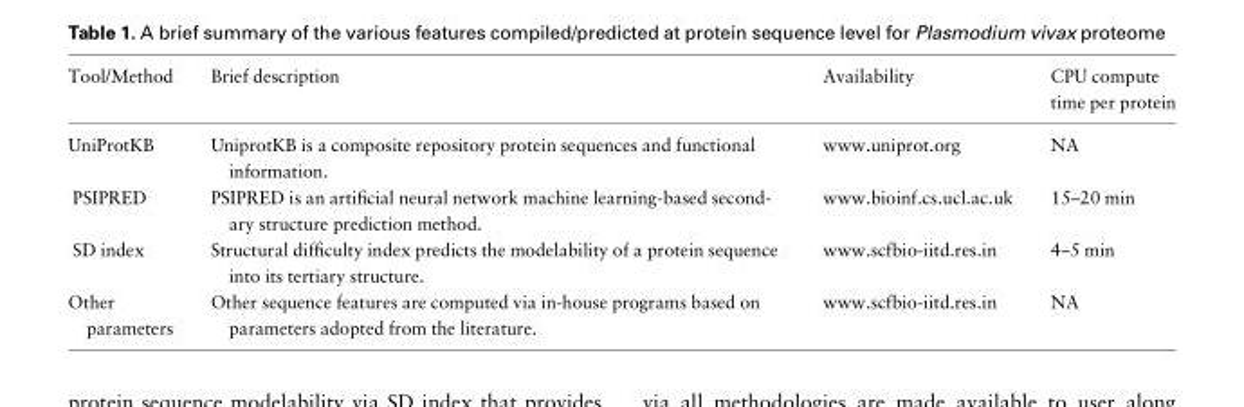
<table><thead><tr><td>Tool/Method</td><td>Brief description</td><td>Availability</td><td>CPU compute time per protein</td></tr></thead><tbody><tr><td>UniProtKB</td><td>UniprotKB is a composite repository protein sequences and functional information.</td><td>www.uniprot.org</td><td>NA</td></tr><tr><td>PSIPRED</td><td>PSIPRED is an artificial neural network machine learning-based second- ary structure prediction method.</td><td>www.bioinf.cs.ucl.ac.uk</td><td>15–20 min</td></tr><tr><td>SD index</td><td>Structural difficulty index predicts the modelability of a protein sequence into its tertiary structure.</td><td>www.scfbio-iitd.res.in</td><td>4–5 min</td></tr><tr><td>Other parameters</td><td>Other sequence features are computed via in-house programs based on parameters adopted from the literature.</td><td>www.scfbio-iitd.res.in</td><td>NA</td></tr></tbody></table>